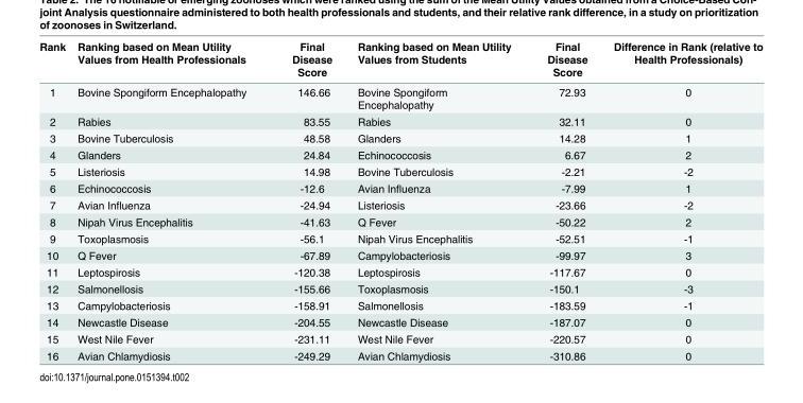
<table><thead><tr><td>Rank</td><td>Ranking based on Mean Utility Values from Health Professionals</td><td>Final Disease Score</td><td>Ranking based on Mean Utility Values from Students</td><td>Final Disease Score</td><td>Difference in Rank (relative to Health Professionals)</td></tr></thead><tbody><tr><td>1</td><td>Bovine Spongiform Encephalopathy</td><td>146.66</td><td>Bovine Spongiform Encephalopathy</td><td>72.93</td><td>0</td></tr><tr><td>2</td><td>Rabies</td><td>83.55</td><td>Rabies</td><td>32.11</td><td>0</td></tr><tr><td>3</td><td>Bovine Tuberculosis</td><td>48.58</td><td>Glanders</td><td>14.28</td><td>1</td></tr><tr><td>4</td><td>Glanders</td><td>24.84</td><td>Echinococcosis</td><td>6.67</td><td>2</td></tr><tr><td>5</td><td>Listeriosis</td><td>14.98</td><td>Bovine Tuberculosis</td><td>-2.21</td><td>-2</td></tr><tr><td>6</td><td>Echinococcosis</td><td>-12.6</td><td>Avian Influenza</td><td>-7.99</td><td>1</td></tr><tr><td>7</td><td>Avian Influenza</td><td>-24.94</td><td>Listeriosis</td><td>-23.66</td><td>-2</td></tr><tr><td>8</td><td>Nipah Virus Encephalitis</td><td>-41.63</td><td>Q Fever</td><td>-50.22</td><td>2</td></tr><tr><td>9</td><td>Toxoplasmosis</td><td>-56.1</td><td>Nipah Virus Encephalitis</td><td>-52.51</td><td>-1</td></tr><tr><td>10</td><td>Q Fever</td><td>-67.89</td><td>Campylobacteriosis</td><td>-99.97</td><td>3</td></tr><tr><td>11</td><td>Leptospirosis</td><td>-120.38</td><td>Leptospirosis</td><td>-117.67</td><td>0</td></tr><tr><td>12</td><td>Salmonellosis</td><td>-155.66</td><td>Toxoplasmosis</td><td>-150.1</td><td>-3</td></tr><tr><td>13</td><td>Campylobacteriosis</td><td>-158.91</td><td>Salmonellosis</td><td>-183.59</td><td>-1</td></tr><tr><td>14</td><td>Newcastle Disease</td><td>-204.55</td><td>Newcastle Disease</td><td>-187.07</td><td>0</td></tr><tr><td>15</td><td>West Nile Fever</td><td>-231.11</td><td>West Nile Fever</td><td>-220.57</td><td>0</td></tr><tr><td>16</td><td>Avian Chlamydiosis</td><td>-249.29</td><td>Avian Chlamydiosis</td><td>-310.86</td><td>0</td></tr></tbody></table>